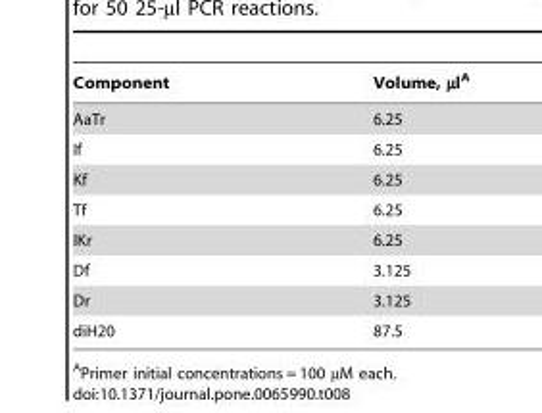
<table><thead><tr><td>Component</td><td>Volume, µl<sup>A</sup></td></tr></thead><tbody><tr><td>AaTr</td><td>6.25</td></tr><tr><td>If</td><td>6.25</td></tr><tr><td>Kf</td><td>6.25</td></tr><tr><td>Tf</td><td>6.25</td></tr><tr><td>IKr</td><td>6.25</td></tr><tr><td>Df</td><td>3.125</td></tr><tr><td>Dr</td><td>3.125</td></tr><tr><td>diH20</td><td>87.5</td></tr></tbody></table>